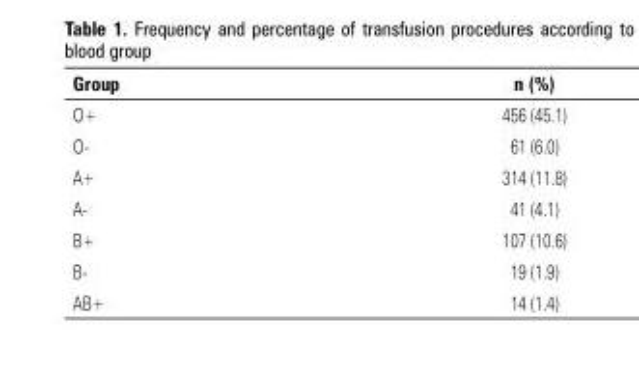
<table><thead><tr><td>Group</td><td>n (%)</td></tr></thead><tbody><tr><td>O+</td><td>456 (45.1)</td></tr><tr><td>O-</td><td>61 (6.0)</td></tr><tr><td>A+</td><td>314 (11.8)</td></tr><tr><td>A-</td><td>41 (4.1)</td></tr><tr><td>B+</td><td>107 (10.6)</td></tr><tr><td>B-</td><td>19 (1.9)</td></tr><tr><td>AB+</td><td>14 (1.4)</td></tr></tbody></table>